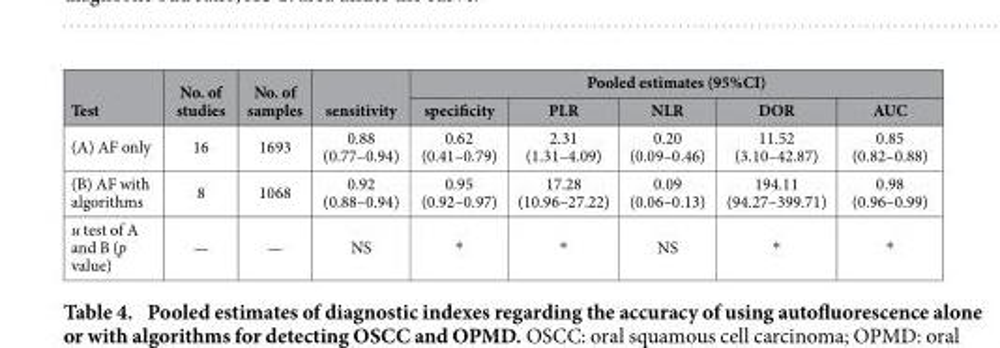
<table><thead><tr><td rowspan="2">Test</td><td rowspan="2">No. of studies</td><td rowspan="2">No. of samples</td><td rowspan="2">sensitivity</td><td colspan="5">Pooled estimates (95%CI)</td></tr><tr><td>specificity</td><td>PLR</td><td>NLR</td><td>DOR</td><td>AUC</td></tr></thead><tbody><tr><td>(A) AF only</td><td>16</td><td>1693</td><td>0.88 (0.77–0.94)</td><td>0.62 (0.41–0.79)</td><td>2.31 (1.31–4.09)</td><td>0.20 (0.09–0.46)</td><td>11.52 (3.10–42.87)</td><td>0.85 (0.82–0.88)</td></tr><tr><td>(B) AF with algorithms</td><td>8</td><td>1068</td><td>0.92 (0.88–0.94)</td><td>0.95 (0.92–0.97)</td><td>17.28 (10.96–27.22)</td><td>0.09 (0.06–0.13)</td><td>194.11 (94.27–399.71)</td><td>0.98 (0.96–0.99)</td></tr><tr><td>u test of A and B (p value)</td><td>—</td><td>—</td><td>NS</td><td>*</td><td>*</td><td>NS</td><td>*</td><td>*</td></tr></tbody></table>